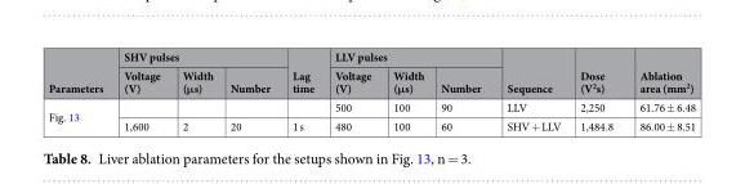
<table><thead><tr><td rowspan="2">Parameters</td><td colspan="3">SHV pulses</td><td rowspan="2">Lag time</td><td colspan="3">LLV pulses</td><td rowspan="2">Sequence</td><td rowspan="2">Dose (V<sup>2</sup>s)</td><td rowspan="2">Ablation area (mm<sup>2</sup>)</td></tr><tr><td>Voltage (V)</td><td>Width (μs)</td><td>Number</td><td>Voltage (V)</td><td>Width (μs)</td><td>Number</td></tr></thead><tbody><tr><td rowspan="2">Fig. 13</td><td></td><td></td><td></td><td></td><td>500</td><td>100</td><td>90</td><td>LLV</td><td>2,250</td><td>61.76 ± 6.48</td></tr><tr><td>1,600</td><td>2</td><td>20</td><td>1 s</td><td>480</td><td>100</td><td>60</td><td>SHV + LLV</td><td>1,484.8</td><td>86.00 ± 8.51</td></tr></tbody></table>